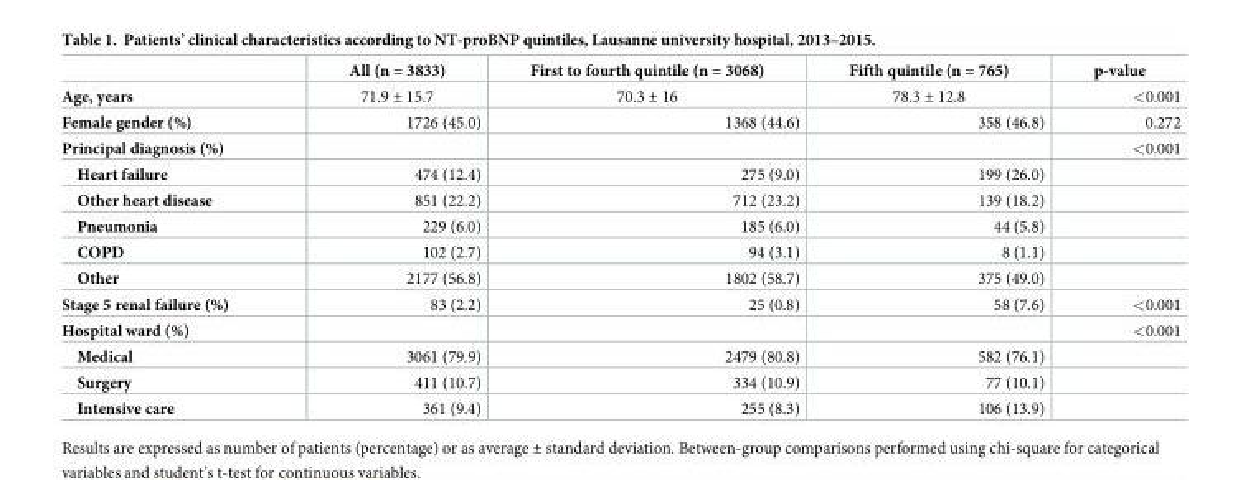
<table><thead><tr><td></td><td>All (n = 3833)</td><td>First to fourth quintile (n = 3068)</td><td>Fifth quintile (n = 765)</td><td>p-value</td></tr></thead><tbody><tr><td>Age, years</td><td>71.9 ± 15.7</td><td>70.3 ± 16</td><td>78.3 ± 12.8</td><td>&lt;0.001</td></tr><tr><td>Female gender (%)</td><td>1726 (45.0)</td><td>1368 (44.6)</td><td>358 (46.8)</td><td>0.272</td></tr><tr><td>Principal diagnosis (%)</td><td></td><td></td><td></td><td>&lt;0.001</td></tr><tr><td>Heart failure</td><td>474 (12.4)</td><td>275 (9.0)</td><td>199 (26.0)</td><td></td></tr><tr><td>Other heart disease</td><td>851 (22.2)</td><td>712 (23.2)</td><td>139 (18.2)</td><td></td></tr><tr><td>Pneumonia</td><td>229 (6.0)</td><td>185 (6.0)</td><td>44 (5.8)</td><td></td></tr><tr><td>COPD</td><td>102 (2.7)</td><td>94 (3.1)</td><td>8 (1.1)</td><td></td></tr><tr><td>Other</td><td>2177 (56.8)</td><td>1802 (58.7)</td><td>375 (49.0)</td><td></td></tr><tr><td>Stage 5 renal failure (%)</td><td>83 (2.2)</td><td>25 (0.8)</td><td>58 (7.6)</td><td>&lt;0.001</td></tr><tr><td>Hospital ward (%)</td><td></td><td></td><td></td><td>&lt;0.001</td></tr><tr><td>Medical</td><td>3061 (79.9)</td><td>2479 (80.8)</td><td>582 (76.1)</td><td></td></tr><tr><td>Surgery</td><td>411 (10.7)</td><td>334 (10.9)</td><td>77 (10.1)</td><td></td></tr><tr><td>Intensive care</td><td>361 (9.4)</td><td>255 (8.3)</td><td>106 (13.9)</td><td></td></tr></tbody></table>